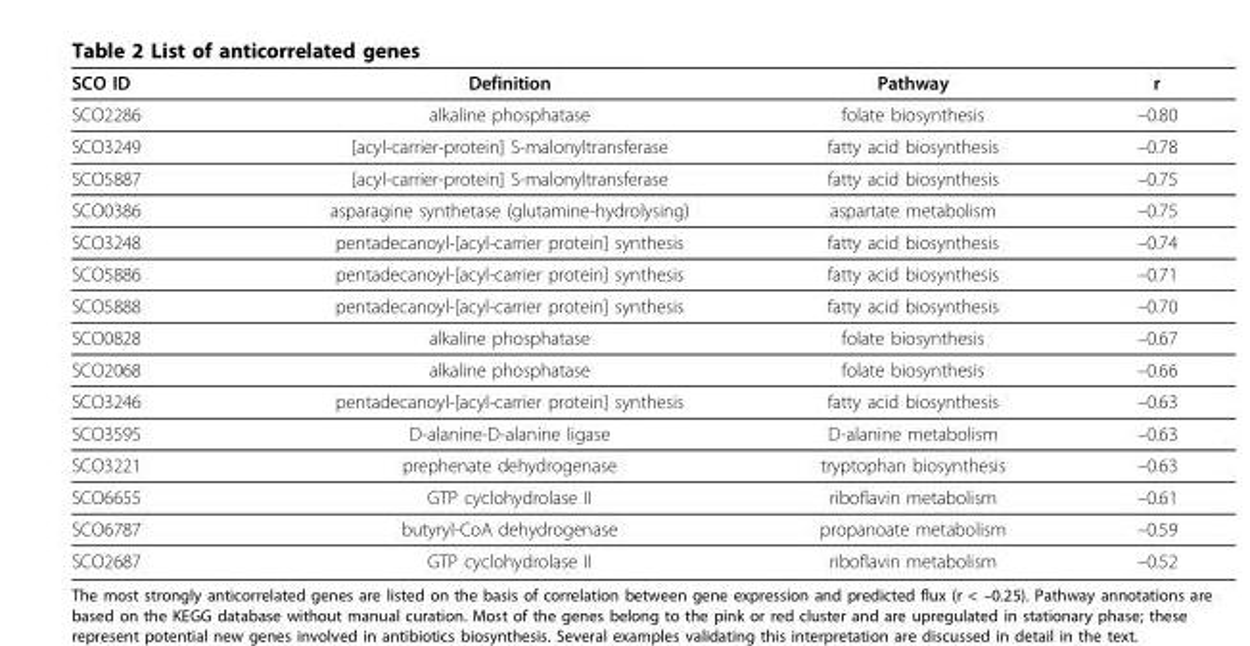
<table><thead><tr><td>SCO ID</td><td>Definition</td><td>Pathway</td><td>r</td></tr></thead><tbody><tr><td>SCO2286</td><td>alkaline phosphatase</td><td>folate biosynthesis</td><td>–0.80</td></tr><tr><td>SCO3249</td><td>[acyl-carrier-protein] S-malonyltransferase</td><td>fatty acid biosynthesis</td><td>–0.78</td></tr><tr><td>SCO5887</td><td>[acyl-carrier-protein] S-malonyltransferase</td><td>fatty acid biosynthesis</td><td>–0.75</td></tr><tr><td>SCO0386</td><td>asparagine synthetase (glutamine-hydrolysing)</td><td>aspartate metabolism</td><td>–0.75</td></tr><tr><td>SCO3248</td><td>pentadecanoyl-[acyl-carrier protein] synthesis</td><td>fatty acid biosynthesis</td><td>–0.74</td></tr><tr><td>SCO5886</td><td>pentadecanoyl-[acyl-carrier protein] synthesis</td><td>fatty acid biosynthesis</td><td>–0.71</td></tr><tr><td>SCO5888</td><td>pentadecanoyl-[acyl-carrier protein] synthesis</td><td>fatty acid biosynthesis</td><td>–0.70</td></tr><tr><td>SCO0828</td><td>alkaline phosphatase</td><td>folate biosynthesis</td><td>–0.67</td></tr><tr><td>SCO2068</td><td>alkaline phosphatase</td><td>folate biosynthesis</td><td>–0.66</td></tr><tr><td>SCO3246</td><td>pentadecanoyl-[acyl-carrier protein] synthesis</td><td>fatty acid biosynthesis</td><td>–0.63</td></tr><tr><td>SCO3595</td><td>D-alanine-D-alanine ligase</td><td>D-alanine metabolism</td><td>–0.63</td></tr><tr><td>SCO3221</td><td>prephenate dehydrogenase</td><td>tryptophan biosynthesis</td><td>–0.63</td></tr><tr><td>SCO6655</td><td>GTP cyclohydrolase II</td><td>riboflavin metabolism</td><td>–0.61</td></tr><tr><td>SCO6787</td><td>butyryl-CoA dehydrogenase</td><td>propanoate metabolism</td><td>–0.59</td></tr><tr><td>SCO2687</td><td>GTP cyclohydrolase II</td><td>riboflavin metabolism</td><td>–0.52</td></tr></tbody></table>